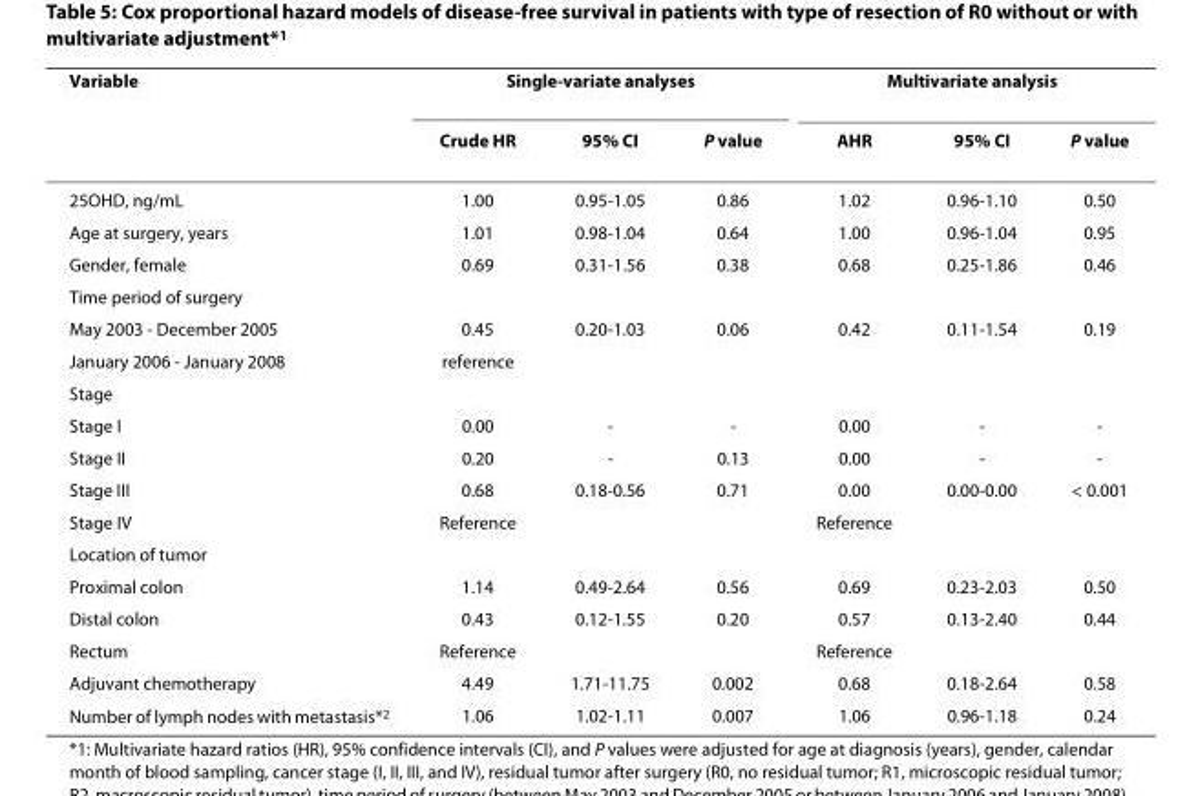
<table><thead><tr><td rowspan="2">Variable</td><td colspan="3">Single-variate analyses</td><td colspan="3">Multivariate analysis</td></tr><tr><td>Crude HR</td><td>95% CI</td><td>P value</td><td>AHR</td><td>95% CI</td><td>P value</td></tr></thead><tbody><tr><td>25OHD, ng/mL</td><td>1.00</td><td>0.95-1.05</td><td>0.86</td><td>1.02</td><td>0.96-1.10</td><td>0.50</td></tr><tr><td>Age at surgery, years</td><td>1.01</td><td>0.98-1.04</td><td>0.64</td><td>1.00</td><td>0.96-1.04</td><td>0.95</td></tr><tr><td>Gender, female</td><td>0.69</td><td>0.31-1.56</td><td>0.38</td><td>0.68</td><td>0.25-1.86</td><td>0.46</td></tr><tr><td colspan="7">Time period of surgery</td></tr><tr><td>May 2003 - December 2005</td><td>0.45</td><td>0.20-1.03</td><td>0.06</td><td>0.42</td><td>0.11-1.54</td><td>0.19</td></tr><tr><td>January 2006 - January 2008</td><td>reference</td><td></td><td></td><td></td><td></td><td></td></tr><tr><td colspan="7">Stage</td></tr><tr><td>Stage I</td><td>0.00</td><td>-</td><td>-</td><td>0.00</td><td>-</td><td>-</td></tr><tr><td>Stage II</td><td>0.20</td><td>-</td><td>0.13</td><td>0.00</td><td>-</td><td>-</td></tr><tr><td>Stage III</td><td>0.68</td><td>0.18-0.56</td><td>0.71</td><td>0.00</td><td>0.00-0.00</td><td>&lt; 0.001</td></tr><tr><td>Stage IV</td><td>Reference</td><td></td><td></td><td>Reference</td><td></td><td></td></tr><tr><td colspan="7">Location of tumor</td></tr><tr><td>Proximal colon</td><td>1.14</td><td>0.49-2.64</td><td>0.56</td><td>0.69</td><td>0.23-2.03</td><td>0.50</td></tr><tr><td>Distal colon</td><td>0.43</td><td>0.12-1.55</td><td>0.20</td><td>0.57</td><td>0.13-2.40</td><td>0.44</td></tr><tr><td>Rectum</td><td>Reference</td><td></td><td></td><td>Reference</td><td></td><td></td></tr><tr><td>Adjuvant chemotherapy</td><td>4.49</td><td>1.71-11.75</td><td>0.002</td><td>0.68</td><td>0.18-2.64</td><td>0.58</td></tr><tr><td>Number of lymph nodes with metastasis*<sup>2</sup></td><td>1.06</td><td>1.02-1.11</td><td>0.007</td><td>1.06</td><td>0.96-1.18</td><td>0.24</td></tr></tbody></table>